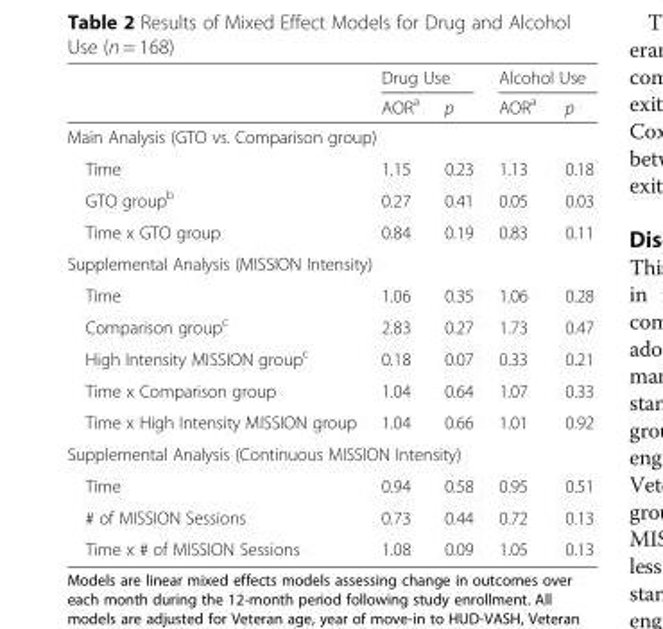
<table><thead><tr><td rowspan="2"></td><td colspan="2">Drug Use</td><td colspan="2">Alcohol Use</td></tr><tr><td>AOR<sup>a</sup></td><td>p</td><td>AOR<sup>a</sup></td><td>p</td></tr></thead><tbody><tr><td colspan="5">Main Analysis (GTO vs. Comparison group)</td></tr><tr><td>Time</td><td>1.15</td><td>0.23</td><td>1.13</td><td>0.18</td></tr><tr><td>GTO group<sup>b</sup></td><td>0.27</td><td>0.41</td><td>0.05</td><td>0.03</td></tr><tr><td>Time x GTO group</td><td>0.84</td><td>0.19</td><td>0.83</td><td>0.11</td></tr><tr><td colspan="5">Supplemental Analysis (MISSION Intensity)</td></tr><tr><td>Time</td><td>1.06</td><td>0.35</td><td>1.06</td><td>0.28</td></tr><tr><td>Comparison group<sup>c</sup></td><td>2.83</td><td>0.27</td><td>1.73</td><td>0.47</td></tr><tr><td>High Intensity MISSION group<sup>c</sup></td><td>0.18</td><td>0.07</td><td>0.33</td><td>0.21</td></tr><tr><td>Time x Comparison group</td><td>1.04</td><td>0.64</td><td>1.07</td><td>0.33</td></tr><tr><td>Time x High Intensity MISSION group</td><td>1.04</td><td>0.66</td><td>1.01</td><td>0.92</td></tr><tr><td colspan="5">Supplemental Analysis (Continuous MISSION Intensity)</td></tr><tr><td>Time</td><td>0.94</td><td>0.58</td><td>0.95</td><td>0.51</td></tr><tr><td># of MISSION Sessions</td><td>0.73</td><td>0.44</td><td>0.72</td><td>0.13</td></tr><tr><td>Time x # of MISSION Sessions</td><td>1.08</td><td>0.09</td><td>1.05</td><td>0.13</td></tr></tbody></table>